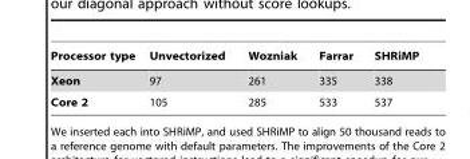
<table><thead><tr><td>Processor type</td><td>Unvectorized</td><td>Wozniak</td><td>Farrar</td><td>SHRiMP</td></tr></thead><tbody><tr><td>Xeon</td><td>97</td><td>261</td><td>335</td><td>338</td></tr><tr><td>Core 2</td><td>105</td><td>285</td><td>533</td><td>537</td></tr></tbody></table>